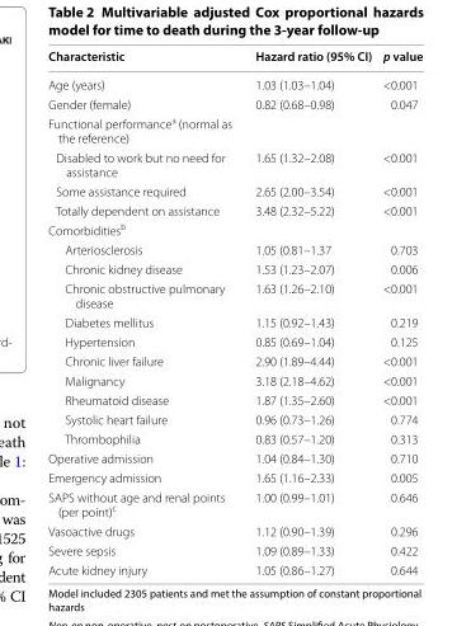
<table><thead><tr><td>Characteristic</td><td>Hazard ratio (95% CI)</td><td>p value</td></tr></thead><tbody><tr><td>Age (years)</td><td>1.03 (1.03–1.04)</td><td>&lt;0.001</td></tr><tr><td>Gender (female)</td><td>0.82 (0.68–0.98)</td><td>0.047</td></tr><tr><td colspan="3">Functional performance<sup>a</sup> (normal as the reference)</td></tr><tr><td>Disabled to work but no need for assistance</td><td>1.65 (1.32–2.08)</td><td>&lt;0.001</td></tr><tr><td>Some assistance required</td><td>2.65 (2.00–3.54)</td><td>&lt;0.001</td></tr><tr><td>Totally dependent on assistance</td><td>3.48 (2.32–5.22)</td><td>&lt;0.001</td></tr><tr><td colspan="3">Comorbidities<sup>b</sup></td></tr><tr><td>Arteriosclerosis</td><td>1.05 (0.81–1.37</td><td>0.703</td></tr><tr><td>Chronic kidney disease</td><td>1.53 (1.23–2.07)</td><td>0.006</td></tr><tr><td>Chronic obstructive pulmonary disease</td><td>1.63 (1.26–2.10)</td><td>&lt;0.001</td></tr><tr><td>Diabetes mellitus</td><td>1.15 (0.92–1.43)</td><td>0.219</td></tr><tr><td>Hypertension</td><td>0.85 (0.69–1.04)</td><td>0.125</td></tr><tr><td>Chronic liver failure</td><td>2.90 (1.89–4.44)</td><td>&lt;0.001</td></tr><tr><td>Malignancy</td><td>3.18 (2.18–4.62)</td><td>&lt;0.001</td></tr><tr><td>Rheumatoid disease</td><td>1.87 (1.35–2.60)</td><td>&lt;0.001</td></tr><tr><td>Systolic heart failure</td><td>0.96 (0.73–1.26)</td><td>0.774</td></tr><tr><td>Thrombophilia</td><td>0.83 (0.57–1.20)</td><td>0.313</td></tr><tr><td>Operative admission</td><td>1.04 (0.84–1.30)</td><td>0.710</td></tr><tr><td>Emergency admission</td><td>1.65 (1.16–2.33)</td><td>0.005</td></tr><tr><td>SAPS without age and renal points (per point)<sup>c</sup></td><td>1.00 (0.99–1.01)</td><td>0.646</td></tr><tr><td>Vasoactive drugs</td><td>1.12 (0.90–1.39)</td><td>0.296</td></tr><tr><td>Severe sepsis</td><td>1.09 (0.89–1.33)</td><td>0.422</td></tr><tr><td>Acute kidney injury</td><td>1.05 (0.86–1.27)</td><td>0.644</td></tr></tbody></table>